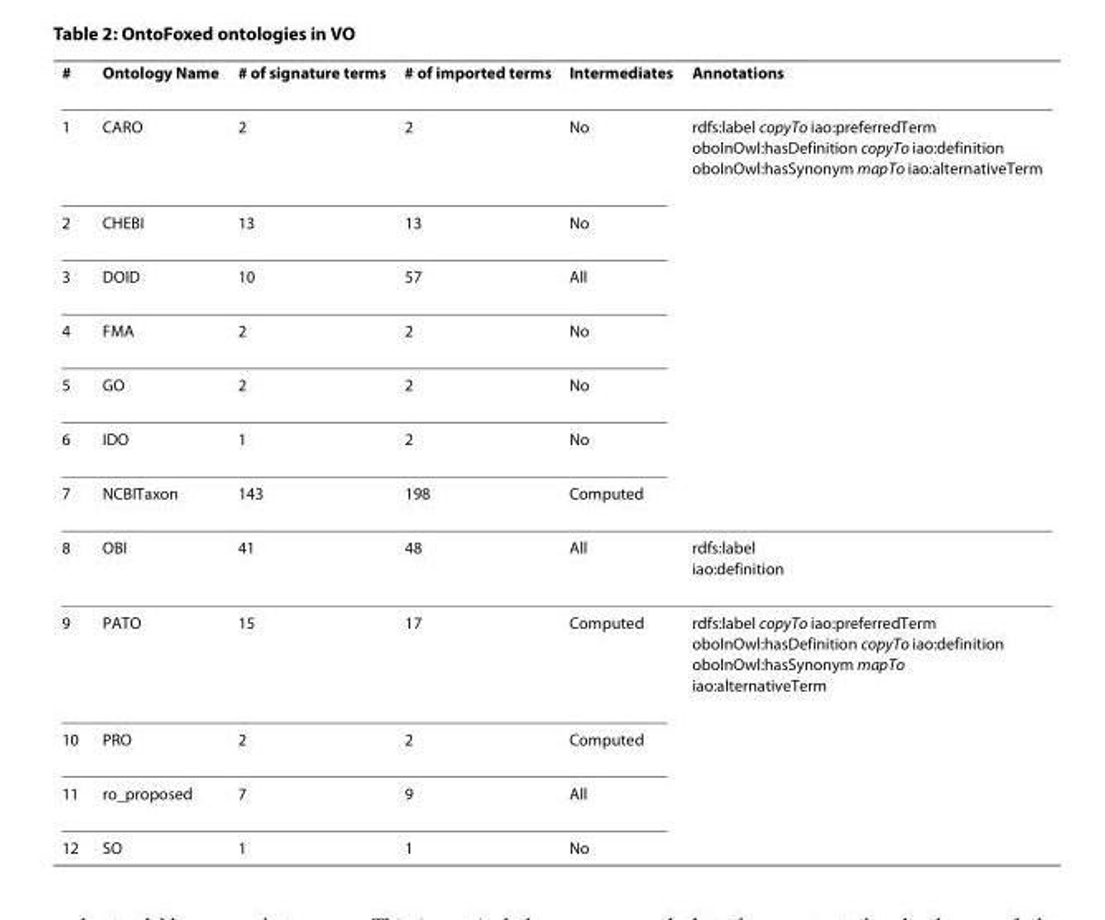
<table><thead><tr><td>#</td><td>Ontology Name</td><td># of signature terms</td><td># of imported terms</td><td>Intermediates</td><td>Annotations</td></tr></thead><tbody><tr><td>1</td><td>CARO</td><td>2</td><td>2</td><td>No</td><td>rdfs:label copyTo iao:preferredTerm oboInOwl:hasDefinition copyTo iao:definition oboInOwl:hasSynonym mapTo iao:alternativeTerm</td></tr><tr><td>2</td><td>CHEBI</td><td>13</td><td>13</td><td>No</td><td></td></tr><tr><td>3</td><td>DOID</td><td>10</td><td>57</td><td>All</td><td></td></tr><tr><td>4</td><td>FMA</td><td>2</td><td>2</td><td>No</td><td></td></tr><tr><td>5</td><td>GO</td><td>2</td><td>2</td><td>No</td><td></td></tr><tr><td>6</td><td>IDO</td><td>1</td><td>2</td><td>No</td><td></td></tr><tr><td>7</td><td>NCBITaxon</td><td>143</td><td>198</td><td>Computed</td><td></td></tr><tr><td>8</td><td>OBI</td><td>41</td><td>48</td><td>All</td><td>rdfs:label iao:definition</td></tr><tr><td>9</td><td>PATO</td><td>15</td><td>17</td><td>Computed</td><td>rdfs:label copyTo iao:preferredTerm oboInOwl:hasDefinition copyTo iao:definition oboInOwl:hasSynonym mapTo iao:alternativeTerm</td></tr><tr><td>10</td><td>PRO</td><td>2</td><td>2</td><td>Computed</td><td></td></tr><tr><td>11</td><td>ro_proposed</td><td>7</td><td>9</td><td>All</td><td></td></tr><tr><td>12</td><td>SO</td><td>1</td><td>1</td><td>No</td><td></td></tr></tbody></table>